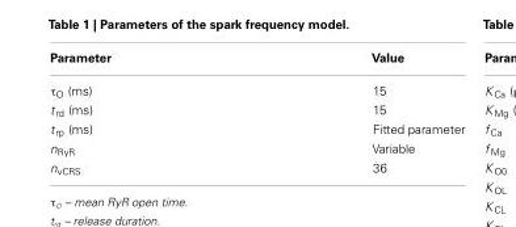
<table><thead><tr><td>Parameter</td><td>Value</td></tr></thead><tbody><tr><td>τ<sub>O</sub> (ms)</td><td>15</td></tr><tr><td>t<sub>rd</sub> (ms)</td><td>15</td></tr><tr><td>t<sub>rp</sub> (ms)</td><td>Fitted parameter</td></tr><tr><td>n<sub>RyR</sub></td><td>Variable</td></tr><tr><td>n<sub>vCRS</sub></td><td>36</td></tr></tbody></table>